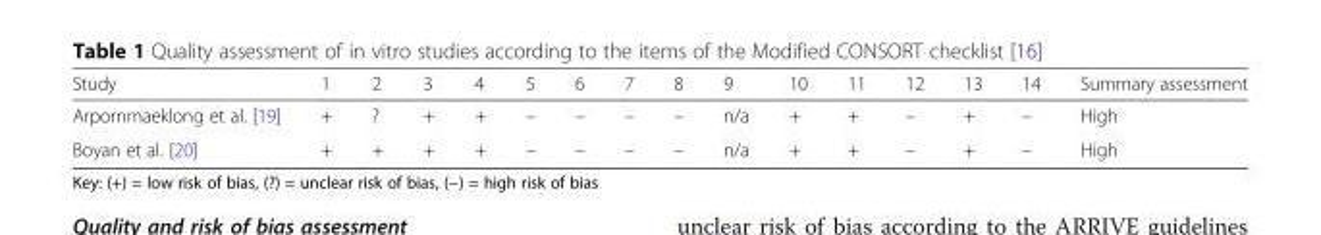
<table><thead><tr><td>Study</td><td>1</td><td>2</td><td>3</td><td>4</td><td>5</td><td>6</td><td>7</td><td>8</td><td>9</td><td>10</td><td>11</td><td>12</td><td>13</td><td>14</td><td>Summary assessment</td></tr></thead><tbody><tr><td>Arpornmaeklong et al. [19]</td><td>+</td><td>?</td><td>+</td><td>+</td><td>–</td><td>–</td><td>–</td><td>–</td><td>n/a</td><td>+</td><td>+</td><td>–</td><td>+</td><td>–</td><td>High</td></tr><tr><td>Boyan et al. [20]</td><td>+</td><td>+</td><td>+</td><td>+</td><td>–</td><td>–</td><td>–</td><td>–</td><td>n/a</td><td>+</td><td>+</td><td>–</td><td>+</td><td>–</td><td>High</td></tr></tbody></table>